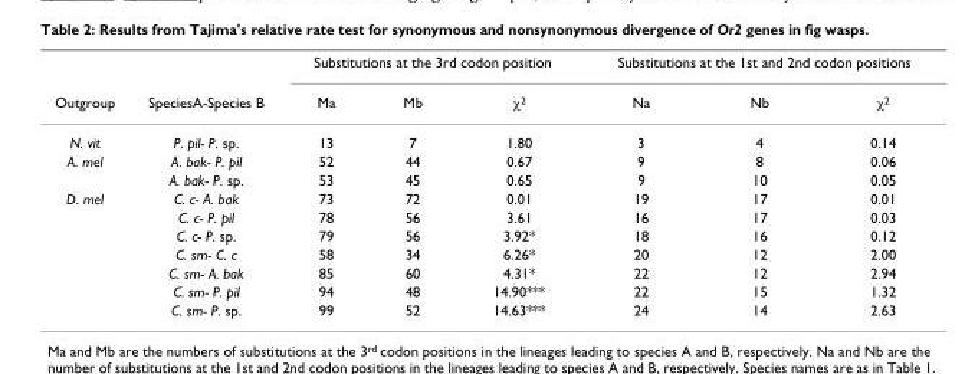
<table><thead><tr><td rowspan="2">Outgroup</td><td rowspan="2">SpeciesA-Species B</td><td colspan="3">Substitutions at the 3rd codon position</td><td colspan="3">Substitutions at the 1st and 2nd codon positions</td></tr><tr><td>Ma</td><td>Mb</td><td>χ<sup>2</sup></td><td>Na</td><td>Nb</td><td>χ<sup>2</sup></td></tr></thead><tbody><tr><td>N. vit</td><td>P. pil- P. sp.</td><td>13</td><td>7</td><td>1.80</td><td>3</td><td>4</td><td>0.14</td></tr><tr><td rowspan="2">A. mel</td><td>A. bak- P. pil</td><td>52</td><td>44</td><td>0.67</td><td>9</td><td>8</td><td>0.06</td></tr><tr><td>A. bak- P. sp.</td><td>53</td><td>45</td><td>0.65</td><td>9</td><td>10</td><td>0.05</td></tr><tr><td rowspan="7">D. mel</td><td>C. c- A. bak</td><td>73</td><td>72</td><td>0.01</td><td>19</td><td>17</td><td>0.01</td></tr><tr><td>C. c- P. pil</td><td>78</td><td>56</td><td>3.61</td><td>16</td><td>17</td><td>0.03</td></tr><tr><td>C. c- P. sp.</td><td>79</td><td>56</td><td>3.92*</td><td>18</td><td>16</td><td>0.12</td></tr><tr><td>C. sm- C. c</td><td>58</td><td>34</td><td>6.26*</td><td>20</td><td>12</td><td>2.00</td></tr><tr><td>C. sm- A. bak</td><td>85</td><td>60</td><td>4.31*</td><td>22</td><td>12</td><td>2.94</td></tr><tr><td>C. sm- P. pil</td><td>94</td><td>48</td><td>14.90***</td><td>22</td><td>15</td><td>1.32</td></tr><tr><td>C. sm- P. sp.</td><td>99</td><td>52</td><td>14.63***</td><td>24</td><td>14</td><td>2.63</td></tr></tbody></table>